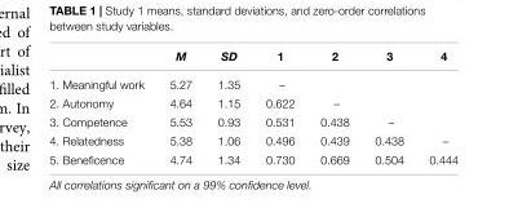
<table><thead><tr><td></td><td>M</td><td>SD</td><td>1</td><td>2</td><td>3</td><td>4</td></tr></thead><tbody><tr><td>1. Meaningful work</td><td>5.27</td><td>1.35</td><td>–</td><td></td><td></td><td></td></tr><tr><td>2. Autonomy</td><td>4.64</td><td>1.15</td><td>0.622</td><td>–</td><td></td><td></td></tr><tr><td>3. Competence</td><td>5.53</td><td>0.93</td><td>0.531</td><td>0.438</td><td>–</td><td></td></tr><tr><td>4. Relatedness</td><td>5.38</td><td>1.06</td><td>0.496</td><td>0.439</td><td>0.438</td><td>–</td></tr><tr><td>5. Beneficence</td><td>4.74</td><td>1.34</td><td>0.730</td><td>0.669</td><td>0.504</td><td>0.444</td></tr></tbody></table>